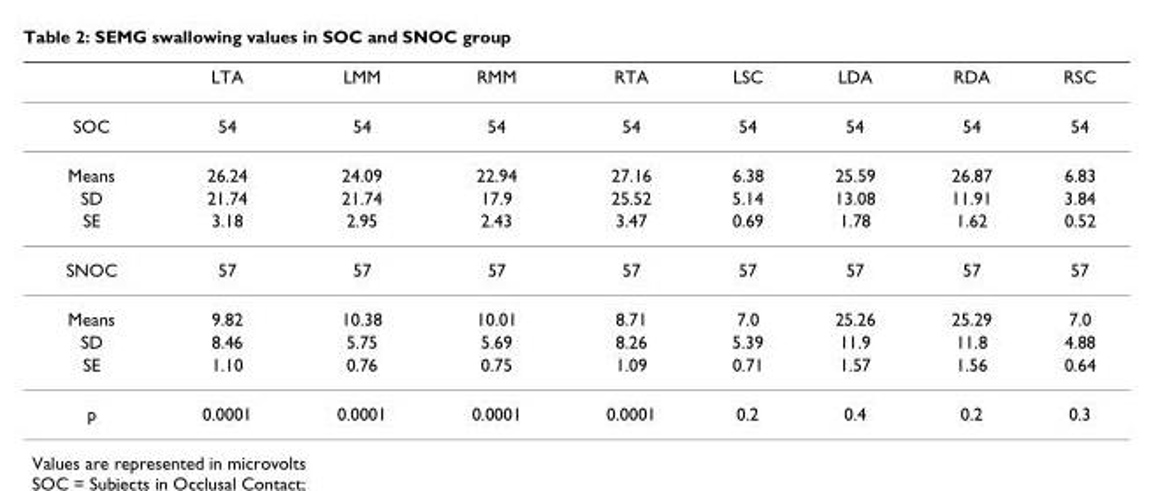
<table><thead><tr><td></td><td>LTA</td><td>LMM</td><td>RMM</td><td>RTA</td><td>LSC</td><td>LDA</td><td>RDA</td><td>RSC</td></tr></thead><tbody><tr><td>SOC</td><td>54</td><td>54</td><td>54</td><td>54</td><td>54</td><td>54</td><td>54</td><td>54</td></tr><tr><td>Means</td><td>26.24</td><td>24.09</td><td>22.94</td><td>27.16</td><td>6.38</td><td>25.59</td><td>26.87</td><td>6.83</td></tr><tr><td>SD</td><td>21.74</td><td>21.74</td><td>17.9</td><td>25.52</td><td>5.14</td><td>13.08</td><td>11.91</td><td>3.84</td></tr><tr><td>SE</td><td>3.18</td><td>2.95</td><td>2.43</td><td>3.47</td><td>0.69</td><td>1.78</td><td>1.62</td><td>0.52</td></tr><tr><td>SNOC</td><td>57</td><td>57</td><td>57</td><td>57</td><td>57</td><td>57</td><td>57</td><td>57</td></tr><tr><td>Means</td><td>9.82</td><td>10.38</td><td>10.01</td><td>8.71</td><td>7.0</td><td>25.26</td><td>25.29</td><td>7.0</td></tr><tr><td>SD</td><td>8.46</td><td>5.75</td><td>5.69</td><td>8.26</td><td>5.39</td><td>11.9</td><td>11.8</td><td>4.88</td></tr><tr><td>SE</td><td>1.10</td><td>0.76</td><td>0.75</td><td>1.09</td><td>0.71</td><td>1.57</td><td>1.56</td><td>0.64</td></tr><tr><td>p</td><td>0.0001</td><td>0.0001</td><td>0.0001</td><td>0.0001</td><td>0.2</td><td>0.4</td><td>0.2</td><td>0.3</td></tr></tbody></table>